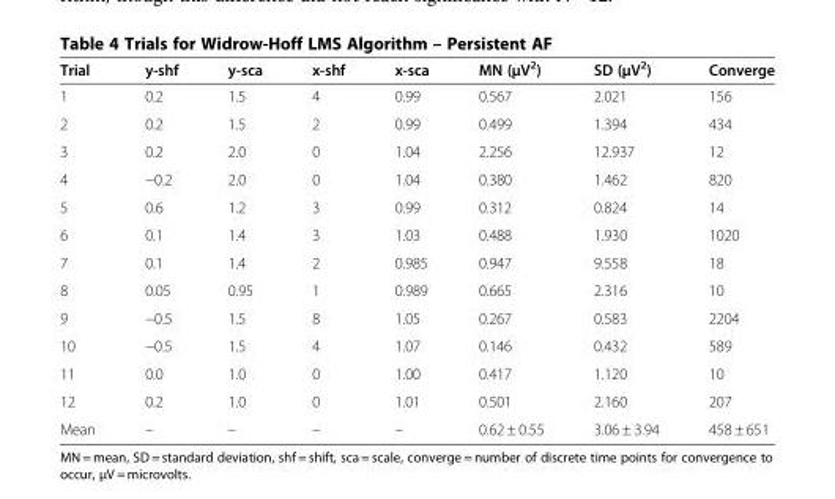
<table><thead><tr><td>Trial</td><td>y-shf</td><td>y-sca</td><td>x-shf</td><td>x-sca</td><td>MN (μV<sup>2</sup>)</td><td>SD (μV<sup>2</sup>)</td><td>Converge</td></tr></thead><tbody><tr><td>1</td><td>0.2</td><td>1.5</td><td>4</td><td>0.99</td><td>0.567</td><td>2.021</td><td>156</td></tr><tr><td>2</td><td>0.2</td><td>1.5</td><td>2</td><td>0.99</td><td>0.499</td><td>1.394</td><td>434</td></tr><tr><td>3</td><td>0.2</td><td>2.0</td><td>0</td><td>1.04</td><td>2.256</td><td>12.937</td><td>12</td></tr><tr><td>4</td><td>−0.2</td><td>2.0</td><td>0</td><td>1.04</td><td>0.380</td><td>1.462</td><td>820</td></tr><tr><td>5</td><td>0.6</td><td>1.2</td><td>3</td><td>0.99</td><td>0.312</td><td>0.824</td><td>14</td></tr><tr><td>6</td><td>0.1</td><td>1.4</td><td>3</td><td>1.03</td><td>0.488</td><td>1.930</td><td>1020</td></tr><tr><td>7</td><td>0.1</td><td>1.4</td><td>2</td><td>0.985</td><td>0.947</td><td>9.558</td><td>18</td></tr><tr><td>8</td><td>0.05</td><td>0.95</td><td>1</td><td>0.989</td><td>0.665</td><td>2.316</td><td>10</td></tr><tr><td>9</td><td>−0.5</td><td>1.5</td><td>8</td><td>1.05</td><td>0.267</td><td>0.583</td><td>2204</td></tr><tr><td>10</td><td>−0.5</td><td>1.5</td><td>4</td><td>1.07</td><td>0.146</td><td>0.432</td><td>589</td></tr><tr><td>11</td><td>0.0</td><td>1.0</td><td>0</td><td>1.00</td><td>0.417</td><td>1.120</td><td>10</td></tr><tr><td>12</td><td>0.2</td><td>1.0</td><td>0</td><td>1.01</td><td>0.501</td><td>2.160</td><td>207</td></tr><tr><td>Mean</td><td>–</td><td>–</td><td>–</td><td>–</td><td>0.62 ± 0.55</td><td>3.06 ± 3.94</td><td>458 ± 651</td></tr></tbody></table>